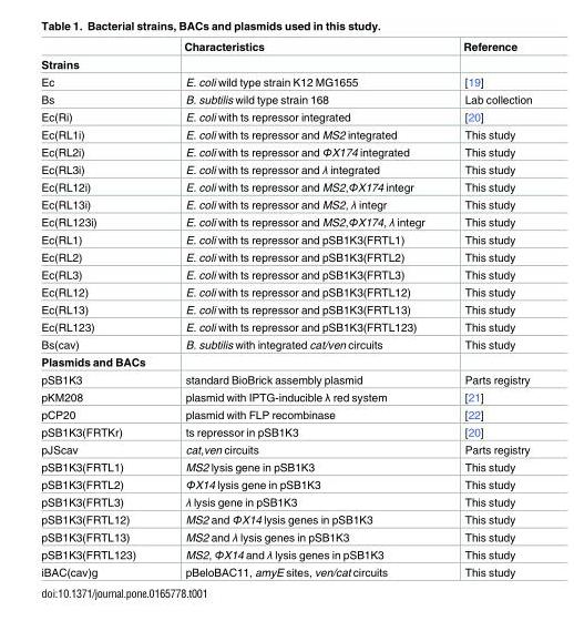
<table><thead><tr><td></td><td>Characteristics</td><td>Reference</td></tr></thead><tbody><tr><td colspan="3">Strains</td></tr><tr><td>Ec</td><td>E. coli wild type strain K12 MG1655</td><td>[19]</td></tr><tr><td>Bs</td><td>B. subtilis wild type strain 168</td><td>Lab collection</td></tr><tr><td>Ec(Ri)</td><td>E. coli with ts repressor integrated</td><td>[20]</td></tr><tr><td>Ec(RL1i)</td><td>E. coli with ts repressor and MS2 integrated</td><td>This study</td></tr><tr><td>Ec(RL2i)</td><td>E. coli with ts repressor and ΦX174 integrated</td><td>This study</td></tr><tr><td>Ec(RL3i)</td><td>E. coli with ts repressor and λ integrated</td><td>This study</td></tr><tr><td>Ec(RL12i)</td><td>E. coli with ts repressor and MS2,ΦX174 integr</td><td>This study</td></tr><tr><td>Ec(RL13i)</td><td>E. coli with ts repressor and MS2, λ integr</td><td>This study</td></tr><tr><td>Ec(RL123i)</td><td>E. coli with ts repressor and MS2,ΦX174, λ integr</td><td>This study</td></tr><tr><td>Ec(RL1)</td><td>E. coli with ts repressor and pSB1K3(FRTL1)</td><td>This study</td></tr><tr><td>Ec(RL2)</td><td>E. coli with ts repressor and pSB1K3(FRTL2)</td><td>This study</td></tr><tr><td>Ec(RL3)</td><td>E. coli with ts repressor and pSB1K3(FRTL3)</td><td>This study</td></tr><tr><td>Ec(RL12)</td><td>E. coli with ts repressor and pSB1K3(FRTL12)</td><td>This study</td></tr><tr><td>Ec(RL13)</td><td>E. coli with ts repressor and pSB1K3(FRTL13)</td><td>This study</td></tr><tr><td>Ec(RL123)</td><td>E. coli with ts repressor and pSB1K3(FRTL123)</td><td>This study</td></tr><tr><td>Bs(cav)</td><td>B. subtilis with integrated cat/ven circuits</td><td>This study</td></tr><tr><td colspan="3">Plasmids and BACs</td></tr><tr><td>pSB1K3</td><td>standard BioBrick assembly plasmid</td><td>Parts registry</td></tr><tr><td>pKM208</td><td>plasmid with IPTG-inducible λ red system</td><td>[21]</td></tr><tr><td>pCP20</td><td>plasmid with FLP recombinase</td><td>[22]</td></tr><tr><td>pSB1K3(FRTKr)</td><td>ts repressor in pSB1K3</td><td>[20]</td></tr><tr><td>pJScav</td><td>cat,ven circuits</td><td>Parts registry</td></tr><tr><td>pSB1K3(FRTL1)</td><td>MS2 lysis gene in pSB1K3</td><td>This study</td></tr><tr><td>pSB1K3(FRTL2)</td><td>ΦX14 lysis gene in pSB1K3</td><td>This study</td></tr><tr><td>pSB1K3(FRTL3)</td><td>λ lysis gene in pSB1K3</td><td>This study</td></tr><tr><td>pSB1K3(FRTL12)</td><td>MS2 and ΦX14 lysis genes in pSB1K3</td><td>This study</td></tr><tr><td>pSB1K3(FRTL13)</td><td>MS2 and λ lysis genes in pSB1K3</td><td>This study</td></tr><tr><td>pSB1K3(FRTL123)</td><td>MS2, ΦX14 and λ lysis genes in pSB1K3</td><td>This study</td></tr><tr><td>iBAC(cav)g</td><td>pBeloBAC11, amyE sites, ven/cat circuits</td><td>This study</td></tr></tbody></table>